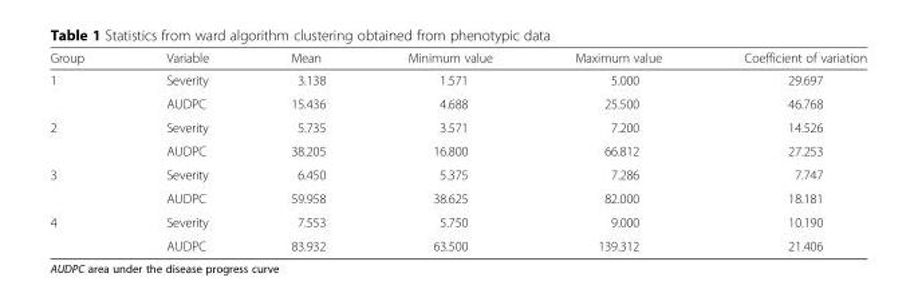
<table><thead><tr><td>Group</td><td>Variable</td><td>Mean</td><td>Minimum value</td><td>Maximum value</td><td>Coefficient of variation</td></tr></thead><tbody><tr><td rowspan="2">1</td><td>Severity</td><td>3.138</td><td>1.571</td><td>5.000</td><td>29.697</td></tr><tr><td>AUDPC</td><td>15.436</td><td>4.688</td><td>25.500</td><td>46.768</td></tr><tr><td rowspan="2">2</td><td>Severity</td><td>5.735</td><td>3.571</td><td>7.200</td><td>14.526</td></tr><tr><td>AUDPC</td><td>38.205</td><td>16.800</td><td>66.812</td><td>27.253</td></tr><tr><td rowspan="2">3</td><td>Severity</td><td>6.450</td><td>5.375</td><td>7.286</td><td>7.747</td></tr><tr><td>AUDPC</td><td>59.958</td><td>38.625</td><td>82.000</td><td>18.181</td></tr><tr><td rowspan="2">4</td><td>Severity</td><td>7.553</td><td>5.750</td><td>9.000</td><td>10.190</td></tr><tr><td>AUDPC</td><td>83.932</td><td>63.500</td><td>139.312</td><td>21.406</td></tr></tbody></table>